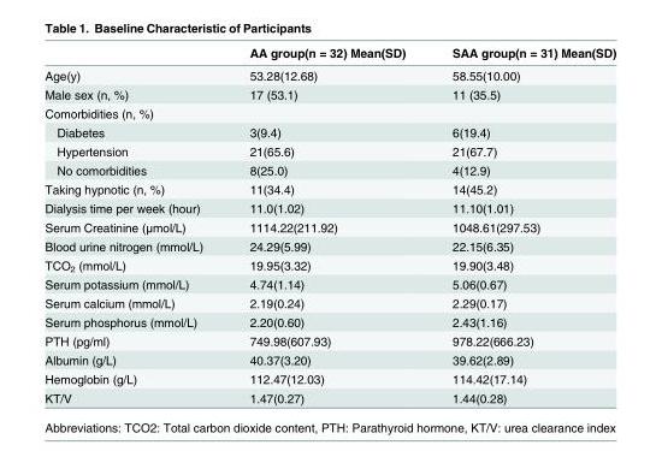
<table><thead><tr><td></td><td>AA group(n = 32) Mean(SD)</td><td>SAA group(n = 31) Mean(SD)</td></tr></thead><tbody><tr><td>Age(y)</td><td>53.28(12.68)</td><td>58.55(10.00)</td></tr><tr><td>Male sex (n, %)</td><td>17 (53.1)</td><td>11 (35.5)</td></tr><tr><td colspan="3">Comorbidities (n, %)</td></tr><tr><td>Diabetes</td><td>3(9.4)</td><td>6(19.4)</td></tr><tr><td>Hypertension</td><td>21(65.6)</td><td>21(67.7)</td></tr><tr><td>No comorbidities</td><td>8(25.0)</td><td>4(12.9)</td></tr><tr><td>Taking hypnotic (n, %)</td><td>11(34.4)</td><td>14(45.2)</td></tr><tr><td>Dialysis time per week (hour)</td><td>11.0(1.02)</td><td>11.10(1.01)</td></tr><tr><td>Serum Creatinine (μmol/L)</td><td>1114.22(211.92)</td><td>1048.61(297.53)</td></tr><tr><td>Blood urine nitrogen (mmol/L)</td><td>24.29(5.99)</td><td>22.15(6.35)</td></tr><tr><td>TCO<sub>2</sub> (mmol/L)</td><td>19.95(3.32)</td><td>19.90(3.48)</td></tr><tr><td>Serum potassium (mmol/L)</td><td>4.74(1.14)</td><td>5.06(0.67)</td></tr><tr><td>Serum calcium (mmol/L)</td><td>2.19(0.24)</td><td>2.29(0.17)</td></tr><tr><td>Serum phosphorus (mmol/L)</td><td>2.20(0.60)</td><td>2.43(1.16)</td></tr><tr><td>PTH (pg/ml)</td><td>749.98(607.93)</td><td>978.22(666.23)</td></tr><tr><td>Albumin (g/L)</td><td>40.37(3.20)</td><td>39.62(2.89)</td></tr><tr><td>Hemoglobin (g/L)</td><td>112.47(12.03)</td><td>114.42(17.14)</td></tr><tr><td>KT/V</td><td>1.47(0.27)</td><td>1.44(0.28)</td></tr></tbody></table>